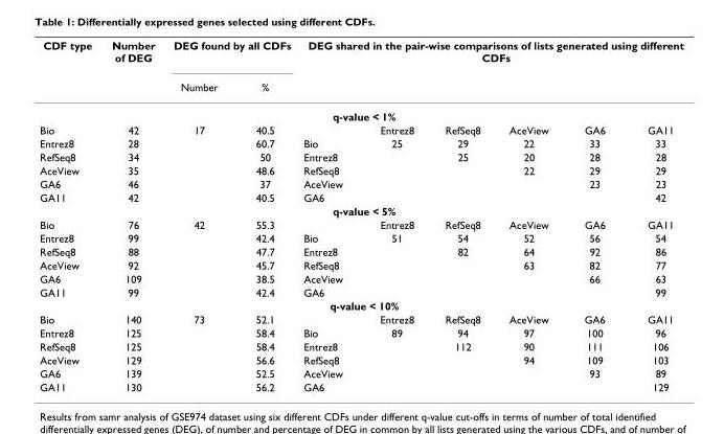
<table><thead><tr><td rowspan="2">CDF type</td><td rowspan="2">Number of DEG</td><td colspan="2">DEG found by all CDFs</td><td colspan="6">DEG shared in the pair-wise comparisons of lists generated using different CDFs</td></tr><tr><td>Number</td><td>%</td><td></td><td></td><td></td><td></td><td></td><td></td></tr></thead><tbody><tr><td colspan="10">q-value &lt; 1%</td></tr><tr><td>Bio</td><td>42</td><td>17</td><td>40.5</td><td></td><td>Entrez8</td><td>RefSeq8</td><td>AceView</td><td>GA6</td><td>GA11</td></tr><tr><td>Entrez8</td><td>28</td><td></td><td>60.7</td><td>Bio</td><td>25</td><td>29</td><td>22</td><td>33</td><td>33</td></tr><tr><td>RefSeq8</td><td>34</td><td></td><td>50</td><td>Entrez8</td><td></td><td>25</td><td>20</td><td>28</td><td>28</td></tr><tr><td>AceView</td><td>35</td><td></td><td>48.6</td><td>RefSeq8</td><td></td><td></td><td>22</td><td>29</td><td>29</td></tr><tr><td>GA6</td><td>46</td><td></td><td>37</td><td>AceView</td><td></td><td></td><td></td><td>23</td><td>23</td></tr><tr><td>GA11</td><td>42</td><td></td><td>40.5</td><td>GA6</td><td></td><td></td><td></td><td></td><td>42</td></tr><tr><td colspan="10">q-value &lt; 5%</td></tr><tr><td>Bio</td><td>76</td><td>42</td><td>55.3</td><td></td><td>Entrez8</td><td>RefSeq8</td><td>AceView</td><td>GA6</td><td>GA11</td></tr><tr><td>Entrez8</td><td>99</td><td></td><td>42.4</td><td>Bio</td><td>51</td><td>54</td><td>52</td><td>56</td><td>54</td></tr><tr><td>RefSeq8</td><td>88</td><td></td><td>47.7</td><td>Entrez8</td><td></td><td>82</td><td>64</td><td>92</td><td>86</td></tr><tr><td>AceView</td><td>92</td><td></td><td>45.7</td><td>RefSeq8</td><td></td><td></td><td>63</td><td>82</td><td>77</td></tr><tr><td>GA6</td><td>109</td><td></td><td>38.5</td><td>AceView</td><td></td><td></td><td></td><td>66</td><td>63</td></tr><tr><td>GA11</td><td>99</td><td></td><td>42.4</td><td>GA6</td><td></td><td></td><td></td><td></td><td>99</td></tr><tr><td colspan="10">q-value &lt; 10%</td></tr><tr><td>Bio</td><td>140</td><td>73</td><td>52.1</td><td></td><td>Entrez8</td><td>RefSeq8</td><td>AceView</td><td>GA6</td><td>GA11</td></tr><tr><td>Entrez8</td><td>125</td><td></td><td>58.4</td><td>Bio</td><td>89</td><td>94</td><td>97</td><td>100</td><td>96</td></tr><tr><td>RefSeq8</td><td>125</td><td></td><td>58.4</td><td>Entrez8</td><td></td><td>112</td><td>90</td><td>111</td><td>106</td></tr><tr><td>AceView</td><td>129</td><td></td><td>56.6</td><td>RefSeq8</td><td></td><td></td><td>94</td><td>109</td><td>103</td></tr><tr><td>GA6</td><td>139</td><td></td><td>52.5</td><td>AceView</td><td></td><td></td><td></td><td>93</td><td>89</td></tr><tr><td>GA11</td><td>130</td><td></td><td>56.2</td><td>GA6</td><td></td><td></td><td></td><td></td><td>129</td></tr></tbody></table>